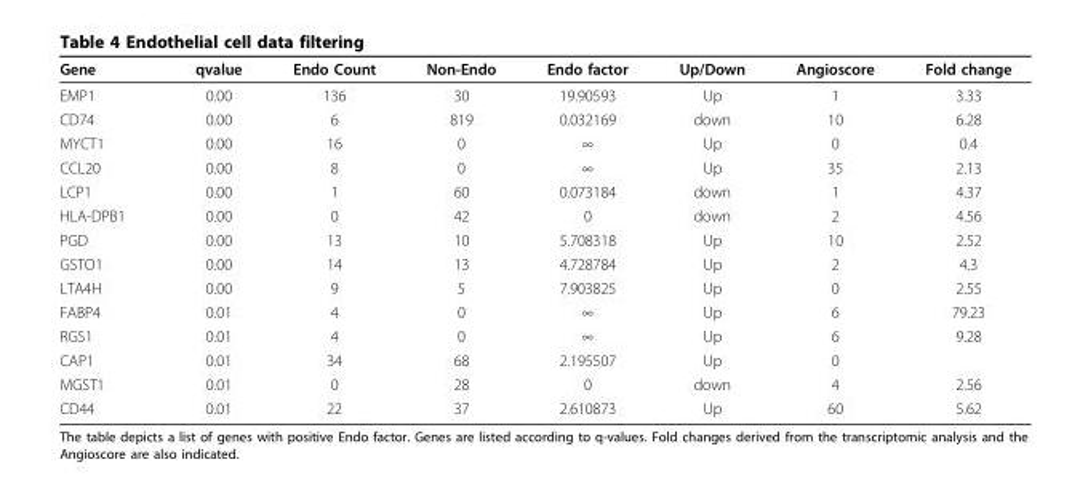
<table><thead><tr><td>Gene</td><td>qvalue</td><td>Endo Count</td><td>Non-Endo</td><td>Endo factor</td><td>Up/Down</td><td>Angioscore</td><td>Fold change</td></tr></thead><tbody><tr><td>EMP1</td><td>0.00</td><td>136</td><td>30</td><td>19.90593</td><td>Up</td><td>1</td><td>3.33</td></tr><tr><td>CD74</td><td>0.00</td><td>6</td><td>819</td><td>0.032169</td><td>down</td><td>10</td><td>6.28</td></tr><tr><td>MYCT1</td><td>0.00</td><td>16</td><td>0</td><td>∞</td><td>Up</td><td>0</td><td>0.4</td></tr><tr><td>CCL20</td><td>0.00</td><td>8</td><td>0</td><td>∞</td><td>Up</td><td>35</td><td>2.13</td></tr><tr><td>LCP1</td><td>0.00</td><td>1</td><td>60</td><td>0.073184</td><td>down</td><td>1</td><td>4.37</td></tr><tr><td>HLA-DPB1</td><td>0.00</td><td>0</td><td>42</td><td>0</td><td>down</td><td>2</td><td>4.56</td></tr><tr><td>PGD</td><td>0.00</td><td>13</td><td>10</td><td>5.708318</td><td>Up</td><td>10</td><td>2.52</td></tr><tr><td>GSTO1</td><td>0.00</td><td>14</td><td>13</td><td>4.728784</td><td>Up</td><td>2</td><td>4.3</td></tr><tr><td>LTA4H</td><td>0.00</td><td>9</td><td>5</td><td>7.903825</td><td>Up</td><td>0</td><td>2.55</td></tr><tr><td>FABP4</td><td>0.01</td><td>4</td><td>0</td><td>∞</td><td>Up</td><td>6</td><td>79.23</td></tr><tr><td>RGS1</td><td>0.01</td><td>4</td><td>0</td><td>∞</td><td>Up</td><td>6</td><td>9.28</td></tr><tr><td>CAP1</td><td>0.01</td><td>34</td><td>68</td><td>2.195507</td><td>Up</td><td>0</td><td></td></tr><tr><td>MGST1</td><td>0.01</td><td>0</td><td>28</td><td>0</td><td>down</td><td>4</td><td>2.56</td></tr><tr><td>CD44</td><td>0.01</td><td>22</td><td>37</td><td>2.610873</td><td>Up</td><td>60</td><td>5.62</td></tr></tbody></table>